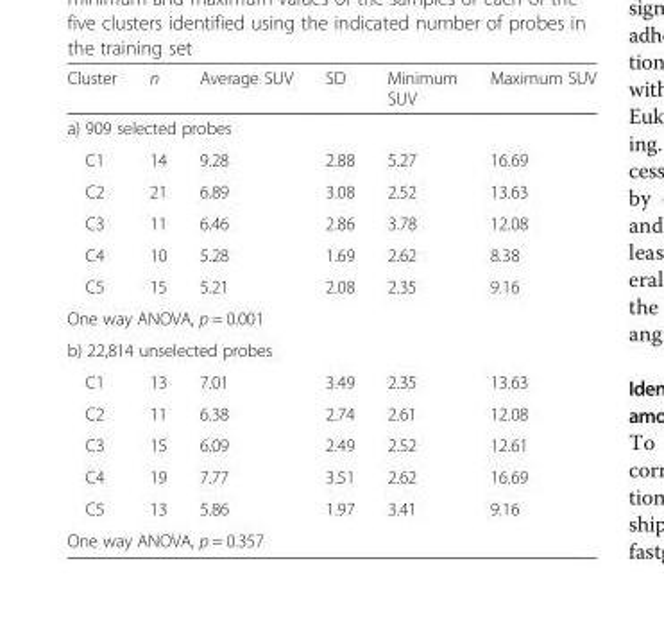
<table><thead><tr><td>Cluster</td><td>n</td><td>Average SUV</td><td>SD</td><td>Minimum SUV</td><td>Maximum SUV</td></tr></thead><tbody><tr><td colspan="6">a) 909 selected probes</td></tr><tr><td>C1</td><td>14</td><td>9.28</td><td>2.88</td><td>5.27</td><td>16.69</td></tr><tr><td>C2</td><td>21</td><td>6.89</td><td>3.08</td><td>2.52</td><td>13.63</td></tr><tr><td>C3</td><td>11</td><td>6.46</td><td>2.86</td><td>3.78</td><td>12.08</td></tr><tr><td>C4</td><td>10</td><td>5.28</td><td>1.69</td><td>2.62</td><td>8.38</td></tr><tr><td>C5</td><td>15</td><td>5.21</td><td>2.08</td><td>2.35</td><td>9.16</td></tr><tr><td colspan="6">One way ANOVA, p = 0.001</td></tr><tr><td colspan="6">b) 22,814 unselected probes</td></tr><tr><td>C1</td><td>13</td><td>7.01</td><td>3.49</td><td>2.35</td><td>13.63</td></tr><tr><td>C2</td><td>11</td><td>6.38</td><td>2.74</td><td>2.61</td><td>12.08</td></tr><tr><td>C3</td><td>15</td><td>6.09</td><td>2.49</td><td>2.52</td><td>12.61</td></tr><tr><td>C4</td><td>19</td><td>7.77</td><td>3.51</td><td>2.62</td><td>16.69</td></tr><tr><td>C5</td><td>13</td><td>5.86</td><td>1.97</td><td>3.41</td><td>9.16</td></tr><tr><td colspan="6">One way ANOVA, p = 0.357</td></tr></tbody></table>